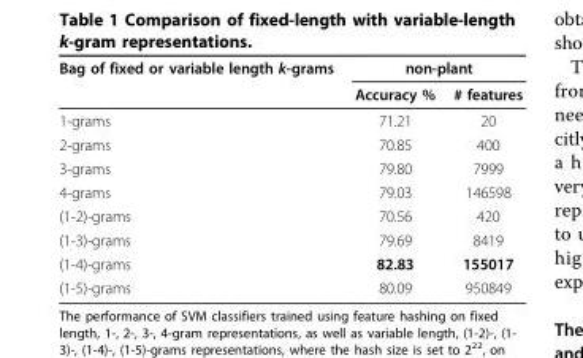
<table><thead><tr><td rowspan="2">Bag of fixed or variable length k-grams</td><td colspan="2">non-plant</td></tr><tr><td>Accuracy %</td><td># features</td></tr></thead><tbody><tr><td>1-grams</td><td>71.21</td><td>20</td></tr><tr><td>2-grams</td><td>70.85</td><td>400</td></tr><tr><td>3-grams</td><td>79.80</td><td>7999</td></tr><tr><td>4-grams</td><td>79.03</td><td>146598</td></tr><tr><td>(1-2)-grams</td><td>70.56</td><td>420</td></tr><tr><td>(1-3)-grams</td><td>79.69</td><td>8419</td></tr><tr><td>(1-4)-grams</td><td>82.83</td><td>155017</td></tr><tr><td>(1-5)-grams</td><td>80.09</td><td>950849</td></tr></tbody></table>